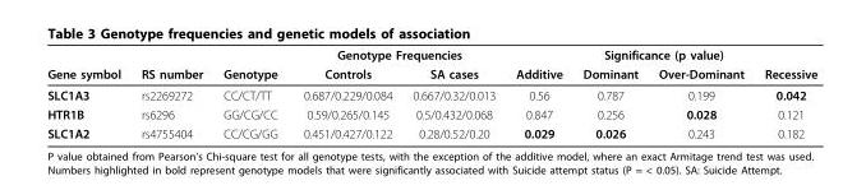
<table><thead><tr><td rowspan="2">Gene symbol</td><td rowspan="2">RS number</td><td rowspan="2">Genotype</td><td colspan="2">Genotype Frequencies</td><td rowspan="2">Additive</td><td colspan="2">Significance (p value)</td><td rowspan="2">Recessive</td></tr><tr><td>Controls</td><td>SA cases</td><td>Dominant</td><td>Over-Dominant</td></tr></thead><tbody><tr><td>SLC1A3</td><td>rs2269272</td><td>CC/CT/TT</td><td>0.687/0.229/0.084</td><td>0.667/0.32/0.013</td><td>0.56</td><td>0.787</td><td>0.199</td><td>0.042</td></tr><tr><td>HTR1B</td><td>rs6296</td><td>GG/CG/CC</td><td>0.59/0.265/0.145</td><td>0.5/0.432/0.068</td><td>0.847</td><td>0.256</td><td>0.028</td><td>0.121</td></tr><tr><td>SLC1A2</td><td>rs4755404</td><td>CC/CG/GG</td><td>0.451/0.427/0.122</td><td>0.28/0.52/0.20</td><td>0.029</td><td>0.026</td><td>0.243</td><td>0.182</td></tr></tbody></table>